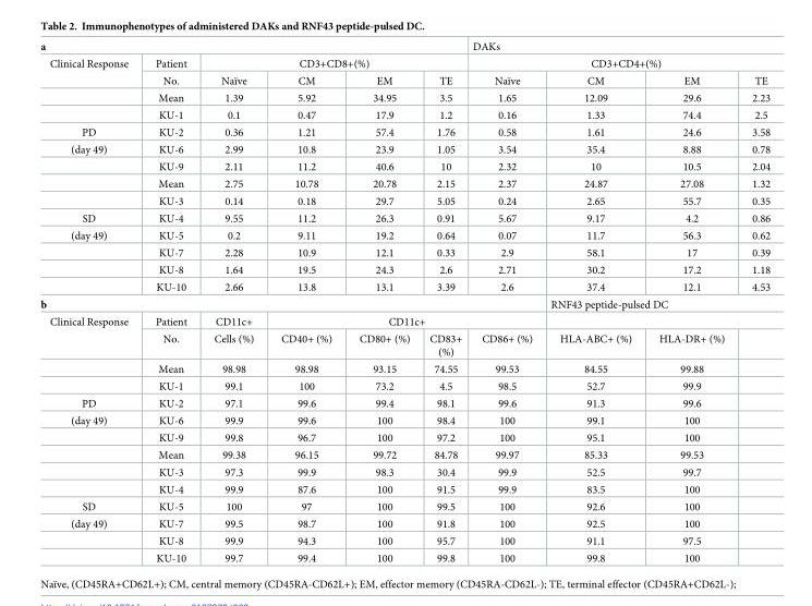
<table><tbody><tr><td colspan="6">a</td><td colspan="4">DAKs</td></tr><tr><td rowspan="4">Clinical Response</td><td>Patient</td><td colspan="4">CD3+CD8+(%)</td><td colspan="4">CD3+CD4+(%)</td></tr><tr><td>No.</td><td>Naïve</td><td>CM</td><td>EM</td><td>TE</td><td>Naïve</td><td>CM</td><td>EM</td><td>TE</td></tr><tr><td>Mean</td><td>1.39</td><td>5.92</td><td>34.95</td><td>3.5</td><td>1.65</td><td>12.09</td><td>29.6</td><td>2.23</td></tr><tr><td>KU-1</td><td>0.1</td><td>0.47</td><td>17.9</td><td>1.2</td><td>0.16</td><td>1.33</td><td>74.4</td><td>2.5</td></tr><tr><td>PD</td><td>KU-2</td><td>0.36</td><td>1.21</td><td>57.4</td><td>1.76</td><td>0.58</td><td>1.61</td><td>24.6</td><td>3.58</td></tr><tr><td rowspan="4">(day 49)</td><td>KU-6</td><td>2.99</td><td>10.8</td><td>23.9</td><td>1.05</td><td>3.54</td><td>35.4</td><td>8.88</td><td>0.78</td></tr><tr><td>KU-9</td><td>2.11</td><td>11.2</td><td>40.6</td><td>10</td><td>2.32</td><td>10</td><td>10.5</td><td>2.04</td></tr><tr><td>Mean</td><td>2.75</td><td>10.78</td><td>20.78</td><td>2.15</td><td>2.37</td><td>24.87</td><td>27.08</td><td>1.32</td></tr><tr><td>KU-3</td><td>0.14</td><td>0.18</td><td>29.7</td><td>5.05</td><td>0.24</td><td>2.65</td><td>55.7</td><td>0.35</td></tr><tr><td>SD</td><td>KU-4</td><td>9.55</td><td>11.2</td><td>26.3</td><td>0.91</td><td>5.67</td><td>9.17</td><td>4.2</td><td>0.86</td></tr><tr><td rowspan="4">(day 49)</td><td>KU-5</td><td>0.2</td><td>9.11</td><td>19.2</td><td>0.64</td><td>0.07</td><td>11.7</td><td>56.3</td><td>0.62</td></tr><tr><td>KU-7</td><td>2.28</td><td>10.9</td><td>12.1</td><td>0.33</td><td>2.9</td><td>58.1</td><td>17</td><td>0.39</td></tr><tr><td>KU-8</td><td>1.64</td><td>19.5</td><td>24.3</td><td>2.6</td><td>2.71</td><td>30.2</td><td>17.2</td><td>1.18</td></tr><tr><td>KU-10</td><td>2.66</td><td>13.8</td><td>13.1</td><td>3.39</td><td>2.6</td><td>37.4</td><td>12.1</td><td>4.53</td></tr><tr><td colspan="7">b</td><td colspan="3">RNF43 peptide-pulsed DC</td></tr><tr><td rowspan="4">Clinical Response</td><td>Patient</td><td>CD11c+</td><td colspan="4">CD11c+</td><td colspan="3"></td></tr><tr><td>No.</td><td>Cells (%)</td><td>CD40+ (%)</td><td>CD80+ (%)</td><td>CD83+ (%)</td><td>CD86+ (%)</td><td>HLA-ABC+ (%)</td><td>HLA-DR+ (%)</td><td></td></tr><tr><td>Mean</td><td>98.98</td><td>98.98</td><td>93.15</td><td>74.55</td><td>99.53</td><td>84.55</td><td>99.88</td><td></td></tr><tr><td>KU-1</td><td>99.1</td><td>100</td><td>73.2</td><td>4.5</td><td>98.5</td><td>52.7</td><td>99.9</td><td></td></tr><tr><td>PD</td><td>KU-2</td><td>97.1</td><td>99.6</td><td>99.4</td><td>98.1</td><td>99.6</td><td>91.3</td><td>99.6</td><td></td></tr><tr><td rowspan="5">(day 49)</td><td>KU-6</td><td>99.9</td><td>99.6</td><td>100</td><td>98.4</td><td>100</td><td>99.1</td><td>100</td><td></td></tr><tr><td>KU-9</td><td>99.8</td><td>96.7</td><td>100</td><td>97.2</td><td>100</td><td>95.1</td><td>100</td><td></td></tr><tr><td>Mean</td><td>99.38</td><td>96.15</td><td>99.72</td><td>84.78</td><td>99.97</td><td>85.33</td><td>99.53</td><td></td></tr><tr><td>KU-3</td><td>97.3</td><td>99.9</td><td>98.3</td><td>30.4</td><td>99.9</td><td>52.5</td><td>99.7</td><td></td></tr><tr><td>KU-4</td><td>99.9</td><td>87.6</td><td>100</td><td>91.5</td><td>99.9</td><td>83.5</td><td>100</td><td></td></tr><tr><td>SD</td><td>KU-5</td><td>100</td><td>97</td><td>100</td><td>99.5</td><td>100</td><td>92.6</td><td>100</td><td></td></tr><tr><td rowspan="3">(day 49)</td><td>KU-7</td><td>99.5</td><td>98.7</td><td>100</td><td>91.8</td><td>100</td><td>92.5</td><td>100</td><td></td></tr><tr><td>KU-8</td><td>99.9</td><td>94.3</td><td>100</td><td>95.7</td><td>100</td><td>91.1</td><td>97.5</td><td></td></tr><tr><td>KU-10</td><td>99.7</td><td>99.4</td><td>100</td><td>99.8</td><td>100</td><td>99.8</td><td>100</td><td></td></tr></tbody></table>